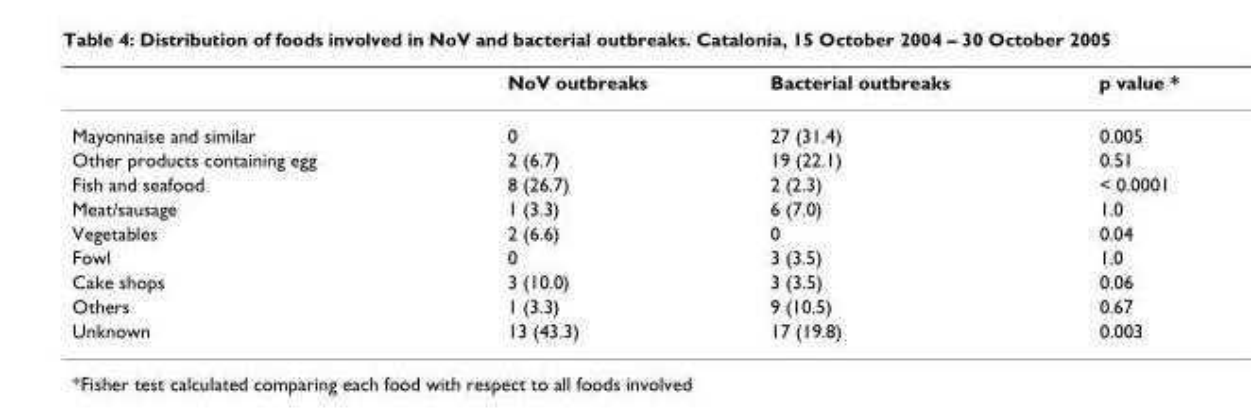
<table><thead><tr><td></td><td>NoV outbreaks</td><td>Bacterial outbreaks</td><td>p value *</td></tr></thead><tbody><tr><td>Mayonnaise and similar</td><td>0</td><td>27 (31.4)</td><td>0.005</td></tr><tr><td>Other products containing egg</td><td>2 (6.7)</td><td>19 (22.1)</td><td>0.51</td></tr><tr><td>Fish and seafood</td><td>8 (26.7)</td><td>2 (2.3)</td><td>&lt; 0.0001</td></tr><tr><td>Meat/sausage</td><td>1 (3.3)</td><td>6 (7.0)</td><td>1.0</td></tr><tr><td>Vegetables</td><td>2 (6.6)</td><td>0</td><td>0.04</td></tr><tr><td>Fowl</td><td>0</td><td>3 (3.5)</td><td>1.0</td></tr><tr><td>Cake shops</td><td>3 (10.0)</td><td>3 (3.5)</td><td>0.06</td></tr><tr><td>Others</td><td>1 (3.3)</td><td>9 (10.5)</td><td>0.67</td></tr><tr><td>Unknown</td><td>13 (43.3)</td><td>17 (19.8)</td><td>0.003</td></tr></tbody></table>